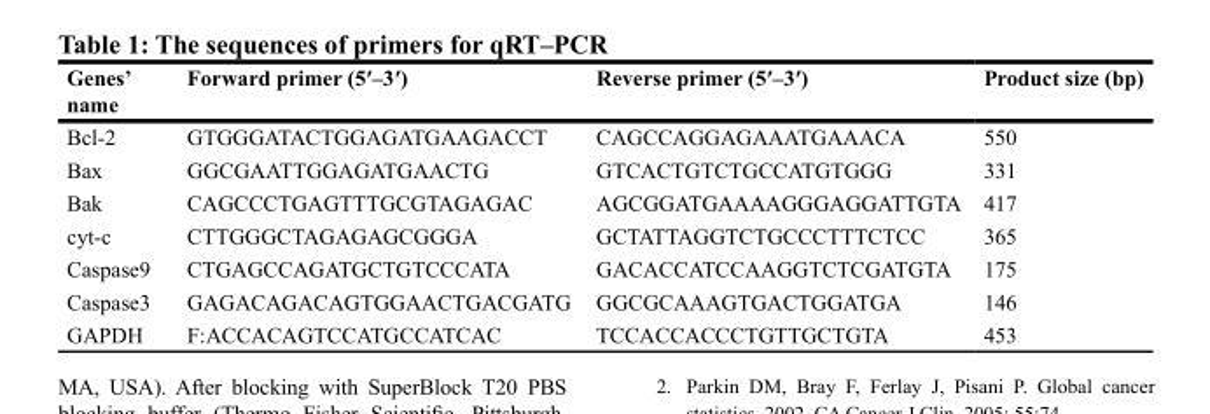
<table><thead><tr><td>Genes’ name</td><td>Forward primer (5′–3′)</td><td>Reverse primer (5′–3′)</td><td>Product size (bp)</td></tr></thead><tbody><tr><td>Bcl-2</td><td>GTGGGATACTGGAGATGAAGACCT</td><td>CAGCCAGGAGAAATGAAACA</td><td>550</td></tr><tr><td>Bax</td><td>GGCGAATTGGAGATGAACTG</td><td>GTCACTGTCTGCCATGTGGG</td><td>331</td></tr><tr><td>Bak</td><td>CAGCCCTGAGTTTGCGTAGAGAC</td><td>AGCGGATGAAAAGGGAGGATTGTA</td><td>417</td></tr><tr><td>cyt-c</td><td>CTTGGGCTAGAGAGCGGGA</td><td>GCTATTAGGTCTGCCCTTTCTCC</td><td>365</td></tr><tr><td>Caspase9</td><td>CTGAGCCAGATGCTGTCCCATA</td><td>GACACCATCCAAGGTCTCGATGTA</td><td>175</td></tr><tr><td>Caspase3</td><td>GAGACAGACAGTGGAACTGACGATG</td><td>GGCGCAAAGTGACTGGATGA</td><td>146</td></tr><tr><td>GAPDH</td><td>F:ACCACAGTCCATGCCATCAC</td><td>TCCACCACCCTGTTGCTGTA</td><td>453</td></tr></tbody></table>